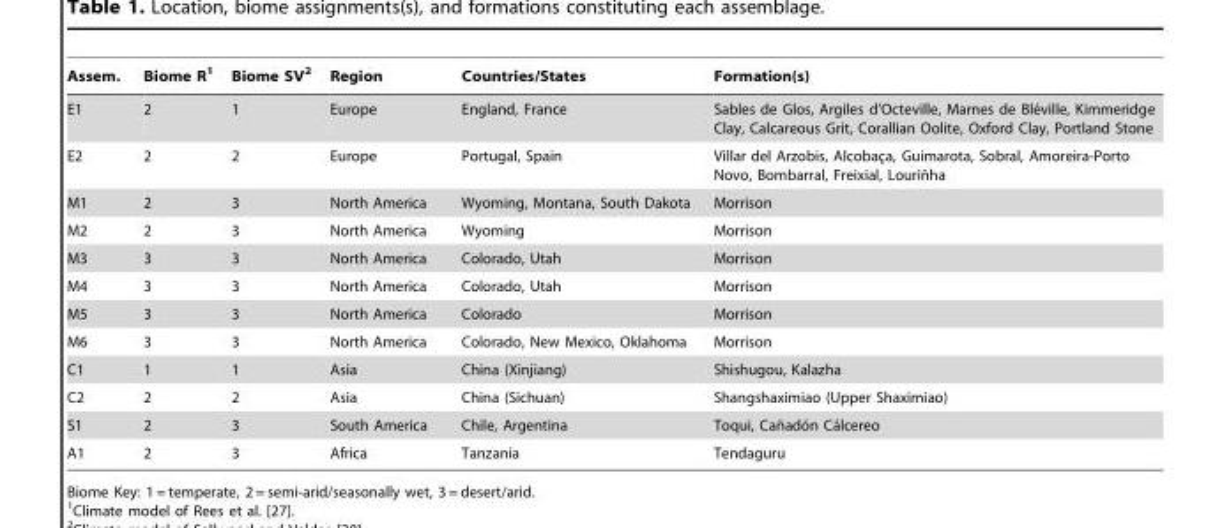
<table><thead><tr><td>Assem.</td><td>Biome R<sup>1</sup></td><td>Biome SV<sup>2</sup></td><td>Region</td><td>Countries/States</td><td>Formation(s)</td></tr></thead><tbody><tr><td>E1</td><td>2</td><td>1</td><td>Europe</td><td>England, France</td><td>Sables de Glos, Argiles d’Octeville, Marnes de Ble´ville, Kimmeridge Clay, Calcareous Grit, Corallian Oolite, Oxford Clay, Portland Stone</td></tr><tr><td>E2</td><td>2</td><td>2</td><td>Europe</td><td>Portugal, Spain</td><td>Villar del Arzobis, Alcobac¸a, Guimarota, Sobral, Amoreira-Porto Novo, Bombarral, Freixial, Lourin˜ha</td></tr><tr><td>M1</td><td>2</td><td>3</td><td>North America</td><td>Wyoming, Montana, South Dakota</td><td>Morrison</td></tr><tr><td>M2</td><td>2</td><td>3</td><td>North America</td><td>Wyoming</td><td>Morrison</td></tr><tr><td>M3</td><td>3</td><td>3</td><td>North America</td><td>Colorado, Utah</td><td>Morrison</td></tr><tr><td>M4</td><td>3</td><td>3</td><td>North America</td><td>Colorado, Utah</td><td>Morrison</td></tr><tr><td>M5</td><td>3</td><td>3</td><td>North America</td><td>Colorado</td><td>Morrison</td></tr><tr><td>M6</td><td>3</td><td>3</td><td>North America</td><td>Colorado, New Mexico, Oklahoma</td><td>Morrison</td></tr><tr><td>C1</td><td>1</td><td>1</td><td>Asia</td><td>China (Xinjiang)</td><td>Shishugou, Kalazha</td></tr><tr><td>C2</td><td>2</td><td>2</td><td>Asia</td><td>China (Sichuan)</td><td>Shangshaximiao (Upper Shaximiao)</td></tr><tr><td>S1</td><td>2</td><td>3</td><td>South America</td><td>Chile, Argentina</td><td>Toqui, Can˜ado´n Ca´lcereo</td></tr><tr><td>A1</td><td>2</td><td>3</td><td>Africa</td><td>Tanzania</td><td>Tendaguru</td></tr></tbody></table>